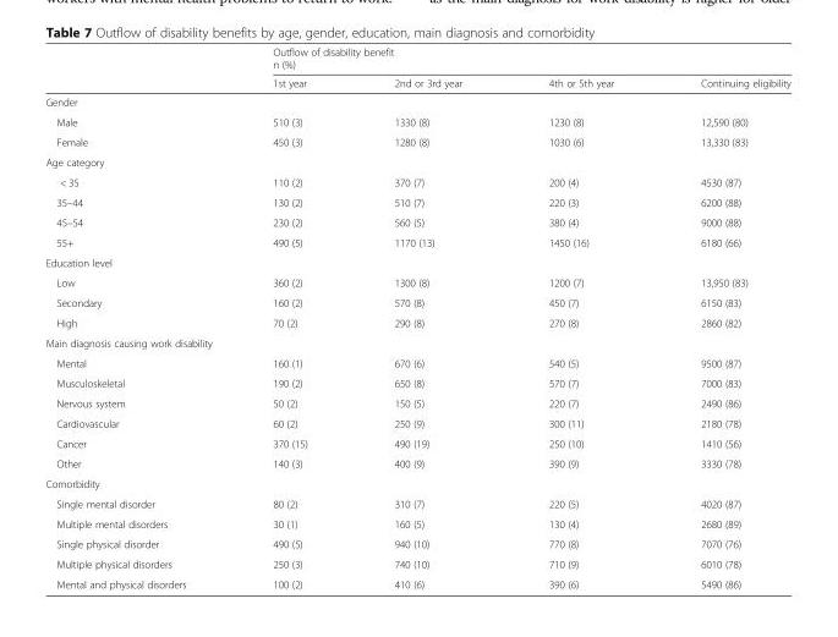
<table><thead><tr><td rowspan="2"></td><td colspan="4">Outflow of disability benefit n (%)</td></tr><tr><td>1st year</td><td>2nd or 3rd year</td><td>4th or 5th year</td><td>Continuing eligibility</td></tr></thead><tbody><tr><td colspan="5">Gender</td></tr><tr><td>Male</td><td>510 (3)</td><td>1330 (8)</td><td>1230 (8)</td><td>12,590 (80)</td></tr><tr><td>Female</td><td>450 (3)</td><td>1280 (8)</td><td>1030 (6)</td><td>13,330 (83)</td></tr><tr><td colspan="5">Age category</td></tr><tr><td>&lt; 35</td><td>110 (2)</td><td>370 (7)</td><td>200 (4)</td><td>4530 (87)</td></tr><tr><td>35–44</td><td>130 (2)</td><td>510 (7)</td><td>220 (3)</td><td>6200 (88)</td></tr><tr><td>45–54</td><td>230 (2)</td><td>560 (5)</td><td>380 (4)</td><td>9000 (88)</td></tr><tr><td>55+</td><td>490 (5)</td><td>1170 (13)</td><td>1450 (16)</td><td>6180 (66)</td></tr><tr><td colspan="5">Education level</td></tr><tr><td>Low</td><td>360 (2)</td><td>1300 (8)</td><td>1200 (7)</td><td>13,950 (83)</td></tr><tr><td>Secondary</td><td>160 (2)</td><td>570 (8)</td><td>450 (7)</td><td>6150 (83)</td></tr><tr><td>High</td><td>70 (2)</td><td>290 (8)</td><td>270 (8)</td><td>2860 (82)</td></tr><tr><td colspan="5">Main diagnosis causing work disability</td></tr><tr><td>Mental</td><td>160 (1)</td><td>670 (6)</td><td>540 (5)</td><td>9500 (87)</td></tr><tr><td>Musculoskeletal</td><td>190 (2)</td><td>650 (8)</td><td>570 (7)</td><td>7000 (83)</td></tr><tr><td>Nervous system</td><td>50 (2)</td><td>150 (5)</td><td>220 (7)</td><td>2490 (86)</td></tr><tr><td>Cardiovascular</td><td>60 (2)</td><td>250 (9)</td><td>300 (11)</td><td>2180 (78)</td></tr><tr><td>Cancer</td><td>370 (15)</td><td>490 (19)</td><td>250 (10)</td><td>1410 (56)</td></tr><tr><td>Other</td><td>140 (3)</td><td>400 (9)</td><td>390 (9)</td><td>3330 (78)</td></tr><tr><td colspan="5">Comorbidity</td></tr><tr><td>Single mental disorder</td><td>80 (2)</td><td>310 (7)</td><td>220 (5)</td><td>4020 (87)</td></tr><tr><td>Multiple mental disorders</td><td>30 (1)</td><td>160 (5)</td><td>130 (4)</td><td>2680 (89)</td></tr><tr><td>Single physical disorder</td><td>490 (5)</td><td>940 (10)</td><td>770 (8)</td><td>7070 (76)</td></tr><tr><td>Multiple physical disorders</td><td>250 (3)</td><td>740 (10)</td><td>710 (9)</td><td>6010 (78)</td></tr><tr><td>Mental and physical disorders</td><td>100 (2)</td><td>410 (6)</td><td>390 (6)</td><td>5490 (86)</td></tr></tbody></table>